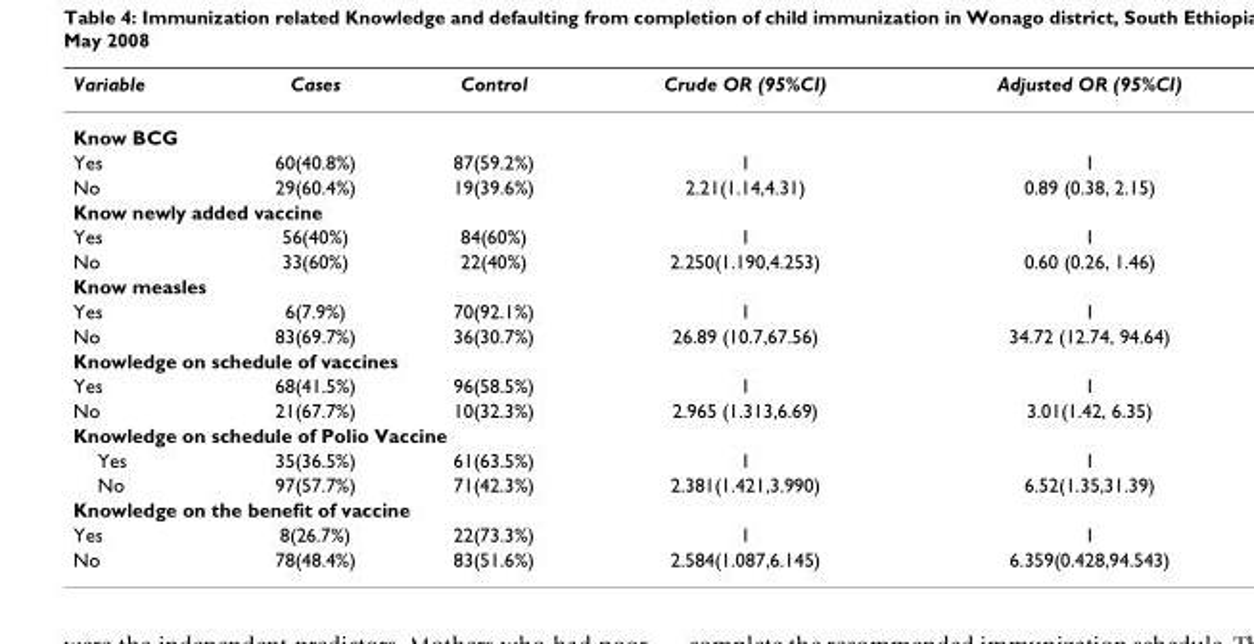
<table><thead><tr><td>Variable</td><td>Cases</td><td>Control</td><td>Crude OR (95%CI)</td><td>Adjusted OR (95%CI)</td></tr></thead><tbody><tr><td colspan="5">Know BCG</td></tr><tr><td>Yes</td><td>60(40.8%)</td><td>87(59.2%)</td><td>1</td><td>1</td></tr><tr><td>No</td><td>29(60.4%)</td><td>19(39.6%)</td><td>2.21(1.14,4.31)</td><td>0.89 (0.38, 2.15)</td></tr><tr><td colspan="5">Know newly added vaccine</td></tr><tr><td>Yes</td><td>56(40%)</td><td>84(60%)</td><td>1</td><td>1</td></tr><tr><td>No</td><td>33(60%)</td><td>22(40%)</td><td>2.250(1.190,4.253)</td><td>0.60 (0.26, 1.46)</td></tr><tr><td colspan="5">Know measles</td></tr><tr><td>Yes</td><td>6(7.9%)</td><td>70(92.1%)</td><td>1</td><td>1</td></tr><tr><td>No</td><td>83(69.7%)</td><td>36(30.7%)</td><td>26.89 (10.7,67.56)</td><td>34.72 (12.74, 94.64)</td></tr><tr><td colspan="5">Knowledge on schedule of vaccines</td></tr><tr><td>Yes</td><td>68(41.5%)</td><td>96(58.5%)</td><td>1</td><td>1</td></tr><tr><td>No</td><td>21(67.7%)</td><td>10(32.3%)</td><td>2.965 (1.313,6.69)</td><td>3.01(1.42, 6.35)</td></tr><tr><td colspan="5">Knowledge on schedule of Polio Vaccine</td></tr><tr><td>Yes</td><td>35(36.5%)</td><td>61(63.5%)</td><td>1</td><td>1</td></tr><tr><td>No</td><td>97(57.7%)</td><td>71(42.3%)</td><td>2.381(1.421,3.990)</td><td>6.52(1.35,31.39)</td></tr><tr><td colspan="5">Knowledge on the benefit of vaccine</td></tr><tr><td>Yes</td><td>8(26.7%)</td><td>22(73.3%)</td><td>1</td><td>1</td></tr><tr><td>No</td><td>78(48.4%)</td><td>83(51.6%)</td><td>2.584(1.087,6.145)</td><td>6.359(0.428,94.543)</td></tr></tbody></table>